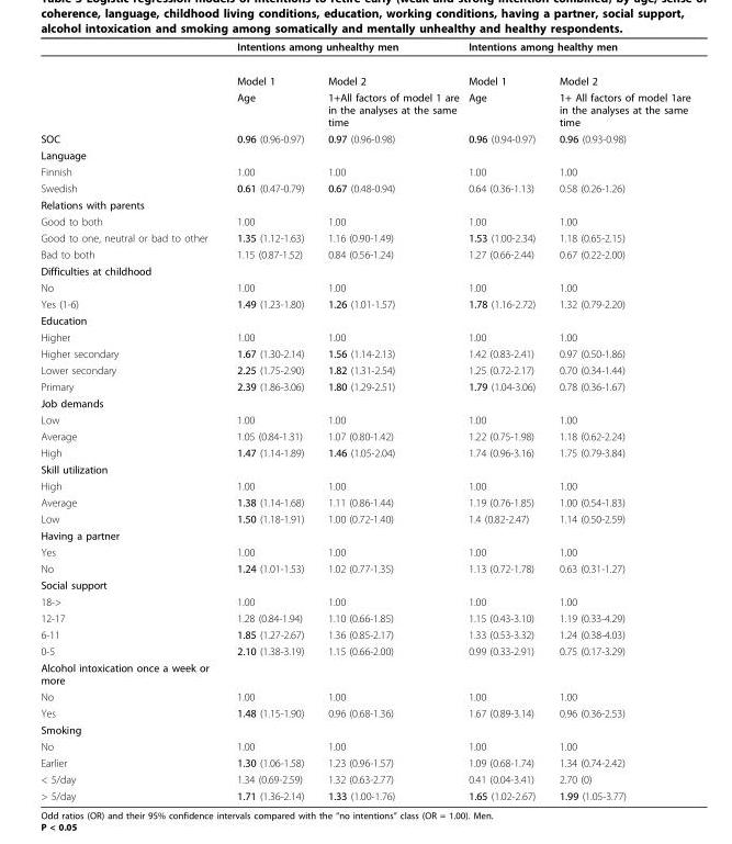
<table><thead><tr><td rowspan="3"></td><td colspan="2">Intentions among unhealthy men</td><td colspan="2">Intentions among healthy men</td></tr><tr><td rowspan="2">Model 1 Age</td><td rowspan="2">Model 2 1+All factors of model 1 are in the analyses at the same time</td><td rowspan="2">Model 1 Age</td><td rowspan="2">Model 2 1+ All factors of model 1are in the analyses at the same time</td></tr><tr></tr></thead><tbody><tr><td>SOC</td><td>0.96 (0.96-0.97)</td><td>0.97 (0.96-0.98)</td><td>0.96 (0.94-0.97)</td><td>0.96 (0.93-0.98)</td></tr><tr><td colspan="5">Language</td></tr><tr><td>Finnish</td><td>1.00</td><td>1.00</td><td>1.00</td><td>1.00</td></tr><tr><td>Swedish</td><td>0.61 (0.47-0.79)</td><td>0.67 (0.48-0.94)</td><td>0.64 (0.36-1.13)</td><td>0.58 (0.26-1.26)</td></tr><tr><td colspan="5">Relations with parents</td></tr><tr><td>Good to both</td><td>1.00</td><td>1.00</td><td>1.00</td><td>1.00</td></tr><tr><td>Good to one, neutral or bad to other</td><td>1.35 (1.12-1.63)</td><td>1.16 (0.90-1.49)</td><td>1.53 (1.00-2.34)</td><td>1.18 (0.65-2.15)</td></tr><tr><td>Bad to both</td><td>1.15 (0.87-1.52)</td><td>0.84 (0.56-1.24)</td><td>1.27 (0.66-2.44)</td><td>0.67 (0.22-2.00)</td></tr><tr><td colspan="5">Difficulties at childhood</td></tr><tr><td>No</td><td>1.00</td><td>1.00</td><td>1.00</td><td>1.00</td></tr><tr><td>Yes (1-6)</td><td>1.49 (1.23-1.80)</td><td>1.26 (1.01-1.57)</td><td>1.78 (1.16-2.72)</td><td>1.32 (0.79-2.20)</td></tr><tr><td colspan="5">Education</td></tr><tr><td>Higher</td><td>1.00</td><td>1.00</td><td>1.00</td><td>1.00</td></tr><tr><td>Higher secondary</td><td>1.67 (1.30-2.14)</td><td>1.56 (1.14-2.13)</td><td>1.42 (0.83-2.41)</td><td>0.97 (0.50-1.86)</td></tr><tr><td>Lower secondary</td><td>2.25 (1.75-2.90)</td><td>1.82 (1.31-2.54)</td><td>1.25 (0.72-2.17)</td><td>0.70 (0.34-1.44)</td></tr><tr><td>Primary</td><td>2.39 (1.86-3.06)</td><td>1.80 (1.29-2.51)</td><td>1.79 (1.04-3.06)</td><td>0.78 (0.36-1.67)</td></tr><tr><td colspan="5">Job demands</td></tr><tr><td>Low</td><td>1.00</td><td>1.00</td><td>1.00</td><td>1.00</td></tr><tr><td>Average</td><td>1.05 (0.84-1.31)</td><td>1.07 (0.80-1.42)</td><td>1.22 (0.75-1.98)</td><td>1.18 (0.62-2.24)</td></tr><tr><td>High</td><td>1.47 (1.14-1.89)</td><td>1.46 (1.05-2.04)</td><td>1.74 (0.96-3.16)</td><td>1.75 (0.79-3.84)</td></tr><tr><td colspan="5">Skill utilization</td></tr><tr><td>High</td><td>1.00</td><td>1.00</td><td>1.00</td><td>1.00</td></tr><tr><td>Average</td><td>1.38 (1.14-1.68)</td><td>1.11 (0.86-1.44)</td><td>1.19 (0.76-1.85)</td><td>1.00 (0.54-1.83)</td></tr><tr><td>Low</td><td>1.50 (1.18-1.91)</td><td>1.00 (0.72-1.40)</td><td>1.4 (0.82-2.47)</td><td>1.14 (0.50-2.59)</td></tr><tr><td colspan="5">Having a partner</td></tr><tr><td>Yes</td><td>1.00</td><td>1.00</td><td>1.00</td><td>1.00</td></tr><tr><td>No</td><td>1.24 (1.01-1.53)</td><td>1.02 (0.77-1.35)</td><td>1.13 (0.72-1.78)</td><td>0.63 (0.31-1.27)</td></tr><tr><td colspan="5">Social support</td></tr><tr><td>18-&gt;</td><td>1.00</td><td>1.00</td><td>1.00</td><td>1.00</td></tr><tr><td>12-17</td><td>1.28 (0.84-1.94)</td><td>1.10 (0.66-1.85)</td><td>1.15 (0.43-3.10)</td><td>1.19 (0.33-4.29)</td></tr><tr><td>6-11</td><td>1.85 (1.27-2.67)</td><td>1.36 (0.85-2.17)</td><td>1.33 (0.53-3.32)</td><td>1.24 (0.38-4.03)</td></tr><tr><td>0-5</td><td>2.10 (1.38-3.19)</td><td>1.15 (0.66-2.00)</td><td>0.99 (0.33-2.91)</td><td>0.75 (0.17-3.29)</td></tr><tr><td colspan="5">Alcohol intoxication once a week or more</td></tr><tr><td>No</td><td>1.00</td><td>1.00</td><td>1.00</td><td>1.00</td></tr><tr><td>Yes</td><td>1.48 (1.15-1.90)</td><td>0.96 (0.68-1.36)</td><td>1.67 (0.89-3.14)</td><td>0.96 (0.36-2.53)</td></tr><tr><td colspan="5">Smoking</td></tr><tr><td>No</td><td>1.00</td><td>1.00</td><td>1.00</td><td>1.00</td></tr><tr><td>Earlier</td><td>1.30 (1.06-1.58)</td><td>1.23 (0.96-1.57)</td><td>1.09 (0.68-1.74)</td><td>1.34 (0.74-2.42)</td></tr><tr><td>&lt; 5/day</td><td>1.34 (0.69-2.59)</td><td>1.32 (0.63-2.77)</td><td>0.41 (0.04-3.41)</td><td>2.70 (0)</td></tr><tr><td>&gt; 5/day</td><td>1.71 (1.36-2.14)</td><td>1.33 (1.00-1.76)</td><td>1.65 (1.02-2.67)</td><td>1.99 (1.05-3.77)</td></tr></tbody></table>